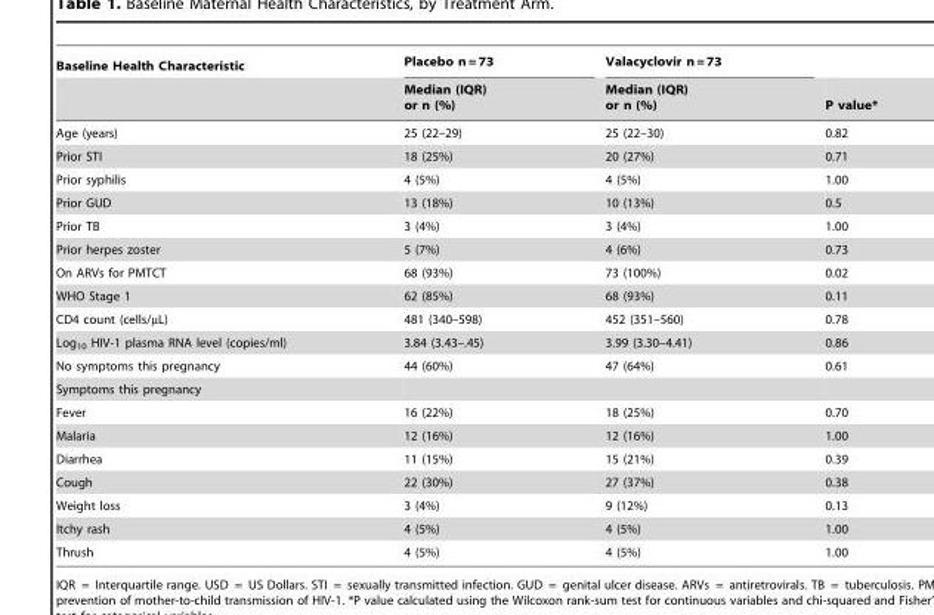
<table><thead><tr><td rowspan="2">Baseline Health Characteristic</td><td rowspan="2">Placebo n = 73 Median (IQR) or n (%)</td><td rowspan="2">Valacyclovir n = 73 Median (IQR) or n (%)</td><td rowspan="2">P value*</td></tr><tr></tr></thead><tbody><tr><td>Age (years)</td><td>25 (22–29)</td><td>25 (22–30)</td><td>0.82</td></tr><tr><td>Prior STI</td><td>18 (25%)</td><td>20 (27%)</td><td>0.71</td></tr><tr><td>Prior syphilis</td><td>4 (5%)</td><td>4 (5%)</td><td>1.00</td></tr><tr><td>Prior GUD</td><td>13 (18%)</td><td>10 (13%)</td><td>0.5</td></tr><tr><td>Prior TB</td><td>3 (4%)</td><td>3 (4%)</td><td>1.00</td></tr><tr><td>Prior herpes zoster</td><td>5 (7%)</td><td>4 (6%)</td><td>0.73</td></tr><tr><td>On ARVs for PMTCT</td><td>68 (93%)</td><td>73 (100%)</td><td>0.02</td></tr><tr><td>WHO Stage 1</td><td>62 (85%)</td><td>68 (93%)</td><td>0.11</td></tr><tr><td>CD4 count (cells/µL)</td><td>481 (340–598)</td><td>452 (351–560)</td><td>0.78</td></tr><tr><td>Log<sub>10</sub> HIV-1 plasma RNA level (copies/ml)</td><td>3.84 (3.43–.45)</td><td>3.99 (3.30–4.41)</td><td>0.86</td></tr><tr><td>No symptoms this pregnancy</td><td>44 (60%)</td><td>47 (64%)</td><td>0.61</td></tr><tr><td colspan="4">Symptoms this pregnancy</td></tr><tr><td>Fever</td><td>16 (22%)</td><td>18 (25%)</td><td>0.70</td></tr><tr><td>Malaria</td><td>12 (16%)</td><td>12 (16%)</td><td>1.00</td></tr><tr><td>Diarrhea</td><td>11 (15%)</td><td>15 (21%)</td><td>0.39</td></tr><tr><td>Cough</td><td>22 (30%)</td><td>27 (37%)</td><td>0.38</td></tr><tr><td>Weight loss</td><td>3 (4%)</td><td>9 (12%)</td><td>0.13</td></tr><tr><td>Itchy rash</td><td>4 (5%)</td><td>4 (5%)</td><td>1.00</td></tr><tr><td>Thrush</td><td>4 (5%)</td><td>4 (5%)</td><td>1.00</td></tr></tbody></table>